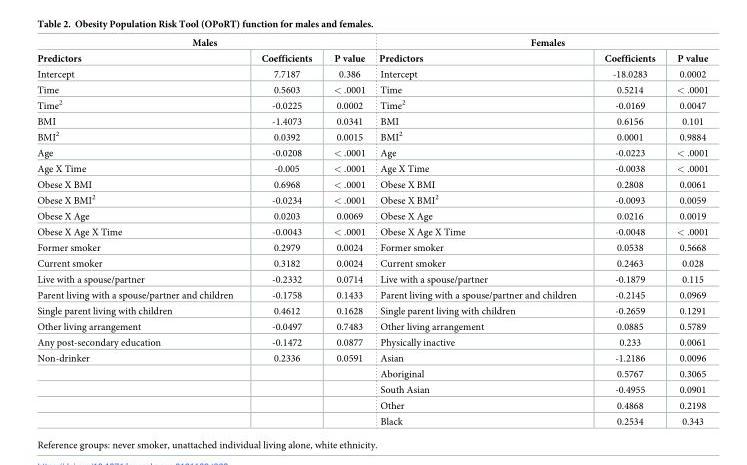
<table><thead><tr><td colspan="3">Males</td><td colspan="3">Females</td></tr><tr><td>Predictors</td><td>Coefficients</td><td>P value</td><td>Predictors</td><td>Coefficients</td><td>P value</td></tr></thead><tbody><tr><td>Intercept</td><td>7.7187</td><td>0.386</td><td>Intercept</td><td>-18.0283</td><td>0.0002</td></tr><tr><td>Time</td><td>0.5603</td><td>&lt; .0001</td><td>Time</td><td>0.5214</td><td>&lt; .0001</td></tr><tr><td>Time<sup>2</sup></td><td>-0.0225</td><td>0.0002</td><td>Time<sup>2</sup></td><td>-0.0169</td><td>0.0047</td></tr><tr><td>BMI</td><td>-1.4073</td><td>0.0341</td><td>BMI</td><td>0.6156</td><td>0.101</td></tr><tr><td>BMI<sup>2</sup></td><td>0.0392</td><td>0.0015</td><td>BMI<sup>2</sup></td><td>0.0001</td><td>0.9884</td></tr><tr><td>Age</td><td>-0.0208</td><td>&lt; .0001</td><td>Age</td><td>-0.0223</td><td>&lt; .0001</td></tr><tr><td>Age X Time</td><td>-0.005</td><td>&lt; .0001</td><td>Age X Time</td><td>-0.0038</td><td>&lt; .0001</td></tr><tr><td>Obese X BMI</td><td>0.6968</td><td>&lt; .0001</td><td>Obese X BMI</td><td>0.2808</td><td>0.0061</td></tr><tr><td>Obese X BMI<sup>2</sup></td><td>-0.0234</td><td>&lt; .0001</td><td>Obese X BMI<sup>2</sup></td><td>-0.0093</td><td>0.0059</td></tr><tr><td>Obese X Age</td><td>0.0203</td><td>0.0069</td><td>Obese X Age</td><td>0.0216</td><td>0.0019</td></tr><tr><td>Obese X Age X Time</td><td>-0.0043</td><td>&lt; .0001</td><td>Obese X Age X Time</td><td>-0.0048</td><td>&lt; .0001</td></tr><tr><td>Former smoker</td><td>0.2979</td><td>0.0024</td><td>Former smoker</td><td>0.0538</td><td>0.5668</td></tr><tr><td>Current smoker</td><td>0.3182</td><td>0.0024</td><td>Current smoker</td><td>0.2463</td><td>0.028</td></tr><tr><td>Live with a spouse/partner</td><td>-0.2332</td><td>0.0714</td><td>Live with a spouse/partner</td><td>-0.1879</td><td>0.115</td></tr><tr><td>Parent living with a spouse/partner and children</td><td>-0.1758</td><td>0.1433</td><td>Parent living with a spouse/partner and children</td><td>-0.2145</td><td>0.0969</td></tr><tr><td>Single parent living with children</td><td>0.4612</td><td>0.1628</td><td>Single parent living with children</td><td>-0.2659</td><td>0.1291</td></tr><tr><td>Other living arrangement</td><td>-0.0497</td><td>0.7483</td><td>Other living arrangement</td><td>0.0885</td><td>0.5789</td></tr><tr><td>Any post-secondary education</td><td>-0.1472</td><td>0.0877</td><td>Physically inactive</td><td>0.233</td><td>0.0061</td></tr><tr><td rowspan="5">Non-drinker</td><td>0.2336</td><td>0.0591</td><td>Asian</td><td>-1.2186</td><td>0.0096</td></tr><tr><td></td><td></td><td>Aboriginal</td><td>0.5767</td><td>0.3065</td></tr><tr><td></td><td></td><td>South Asian</td><td>-0.4955</td><td>0.0901</td></tr><tr><td></td><td></td><td>Other</td><td>0.4868</td><td>0.2198</td></tr><tr><td></td><td></td><td>Black</td><td>0.2534</td><td>0.343</td></tr></tbody></table>